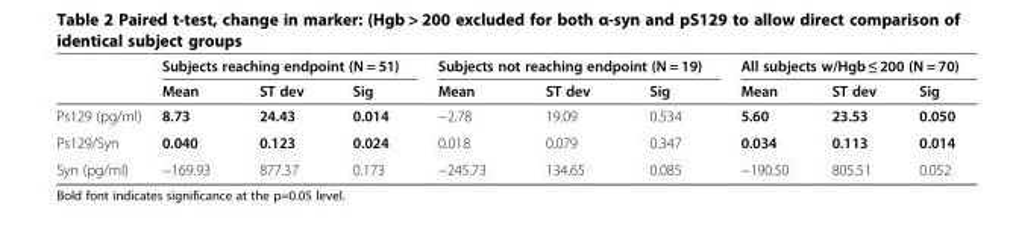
<table><thead><tr><td rowspan="2"></td><td colspan="3">Subjects reaching endpoint (N = 51)</td><td colspan="3">Subjects not reaching endpoint (N = 19)</td><td colspan="3">All subjects w/Hgb ≤ 200 (N = 70)</td></tr><tr><td>Mean</td><td>ST dev</td><td>Sig</td><td>Mean</td><td>ST dev</td><td>Sig</td><td>Mean</td><td>ST dev</td><td>Sig</td></tr></thead><tbody><tr><td>Ps129 (pg/ml)</td><td>8.73</td><td>24.43</td><td>0.014</td><td>−2.78</td><td>19.09</td><td>0.534</td><td>5.60</td><td>23.53</td><td>0.050</td></tr><tr><td>Ps129/Syn</td><td>0.040</td><td>0.123</td><td>0.024</td><td>0.018</td><td>0.079</td><td>0.347</td><td>0.034</td><td>0.113</td><td>0.014</td></tr><tr><td>Syn (pg/ml)</td><td>−169.93</td><td>877.37</td><td>0.173</td><td>−245.73</td><td>134.65</td><td>0.085</td><td>−190.50</td><td>805.51</td><td>0.052</td></tr></tbody></table>